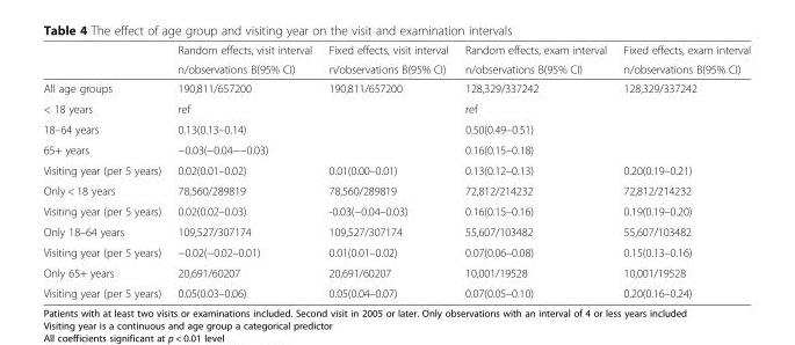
<table><thead><tr><td rowspan="2"></td><td rowspan="2">Random effects, visit interval n/observations B(95% CI)</td><td rowspan="2">Fixed effects, visit interval n/observations B(95% CI)</td><td rowspan="2">Random effects, exam interval n/observations B(95% CI)</td><td rowspan="2">Fixed effects, exam interval n/observations B(95% CI)</td></tr><tr></tr></thead><tbody><tr><td>All age groups</td><td>190,811/657200</td><td>190,811/657200</td><td>128,329/337242</td><td>128,329/337242</td></tr><tr><td>&lt; 18 years</td><td>ref</td><td></td><td>ref</td><td></td></tr><tr><td>18–64 years</td><td>0.13(0.13–0.14)</td><td></td><td>0.50(0.49–0.51)</td><td></td></tr><tr><td>65+ years</td><td>−0.03(−0.04−−0.03)</td><td></td><td>0.16(0.15–0.18)</td><td></td></tr><tr><td>Visiting year (per 5 years)</td><td>0.02(0.01–0.02)</td><td>0.01(0.00–0.01)</td><td>0.13(0.12–0.13)</td><td>0.20(0.19–0.21)</td></tr><tr><td>Only &lt; 18 years</td><td>78,560/289819</td><td>78,560/289819</td><td>72,812/214232</td><td>72,812/214232</td></tr><tr><td>Visiting year (per 5 years)</td><td>0.02(0.02–0.03)</td><td>-0.03(−0.04–0.03)</td><td>0.16(0.15–0.16)</td><td>0.19(0.19–0.20)</td></tr><tr><td>Only 18–64 years</td><td>109,527/307174</td><td>109,527/307174</td><td>55,607/103482</td><td>55,607/103482</td></tr><tr><td>Visiting year (per 5 years)</td><td>−0.02(−0.02–0.01)</td><td>0.01(0.01–0.02)</td><td>0.07(0.06–0.08)</td><td>0.15(0.13–0.16)</td></tr><tr><td>Only 65+ years</td><td>20,691/60207</td><td>20,691/60207</td><td>10,001/19528</td><td>10,001/19528</td></tr><tr><td>Visiting year (per 5 years)</td><td>0.05(0.03–0.06)</td><td>0.05(0.04–0.07)</td><td>0.07(0.05–0.10)</td><td>0.20(0.16–0.24)</td></tr></tbody></table>